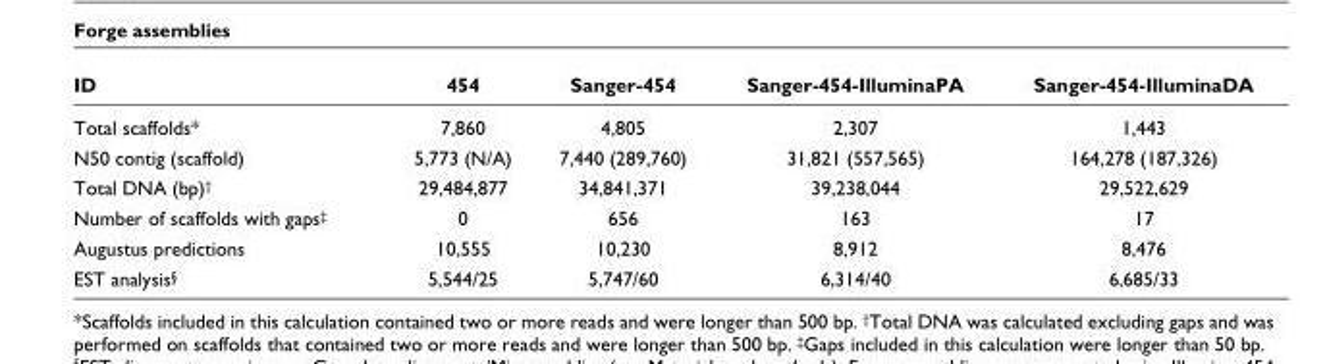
<table><thead><tr><td>ID</td><td>454</td><td>Sanger-454</td><td>Sanger-454-IlluminaPA</td><td>Sanger-454-IlluminaDA</td></tr></thead><tbody><tr><td>Total scaffolds*</td><td>7,860</td><td>4,805</td><td>2,307</td><td>1,443</td></tr><tr><td>N50 contig (scaffold)</td><td>5,773 (N/A)</td><td>7,440 (289,760)</td><td>31,821 (557,565)</td><td>164,278 (187,326)</td></tr><tr><td>Total DNA (bp)<sup>†</sup></td><td>29,484,877</td><td>34,841,371</td><td>39,238,044</td><td>29,522,629</td></tr><tr><td>Number of scaffolds with gaps<sup>‡</sup></td><td>0</td><td>656</td><td>163</td><td>17</td></tr><tr><td>Augustus predictions</td><td>10,555</td><td>10,230</td><td>8,912</td><td>8,476</td></tr><tr><td>EST analysis<sup>§</sup></td><td>5,544/25</td><td>5,747/60</td><td>6,314/40</td><td>6,685/33</td></tr></tbody></table>